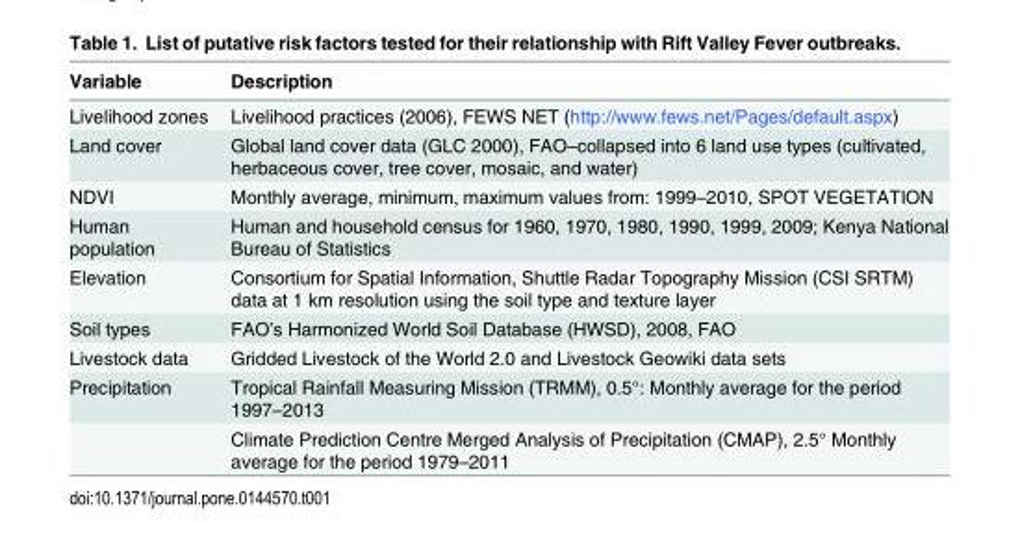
<table><thead><tr><td>Variable</td><td>Description</td></tr></thead><tbody><tr><td>Livelihood zones</td><td>Livelihood practices (2006), FEWS NET (http://www.fews.net/Pages/default.aspx)</td></tr><tr><td>Land cover</td><td>Global land cover data (GLC 2000), FAO–collapsed into 6 land use types (cultivated, herbaceous cover, tree cover, mosaic, and water)</td></tr><tr><td>NDVI</td><td>Monthly average, minimum, maximum values from: 1999–2010, SPOT VEGETATION</td></tr><tr><td>Human population</td><td>Human and household census for 1960, 1970, 1980, 1990, 1999, 2009; Kenya National Bureau of Statistics</td></tr><tr><td>Elevation</td><td>Consortium for Spatial Information, Shuttle Radar Topography Mission (CSI SRTM) data at 1 km resolution using the soil type and texture layer</td></tr><tr><td>Soil types</td><td>FAO’s Harmonized World Soil Database (HWSD), 2008, FAO</td></tr><tr><td>Livestock data</td><td>Gridded Livestock of the World 2.0 and Livestock Geowiki data sets</td></tr><tr><td rowspan="2">Precipitation</td><td>Tropical Rainfall Measuring Mission (TRMM), 0.5°: Monthly average for the period 1997–2013</td></tr><tr><td>Climate Prediction Centre Merged Analysis of Precipitation (CMAP), 2.5° Monthly average for the period 1979–2011</td></tr></tbody></table>